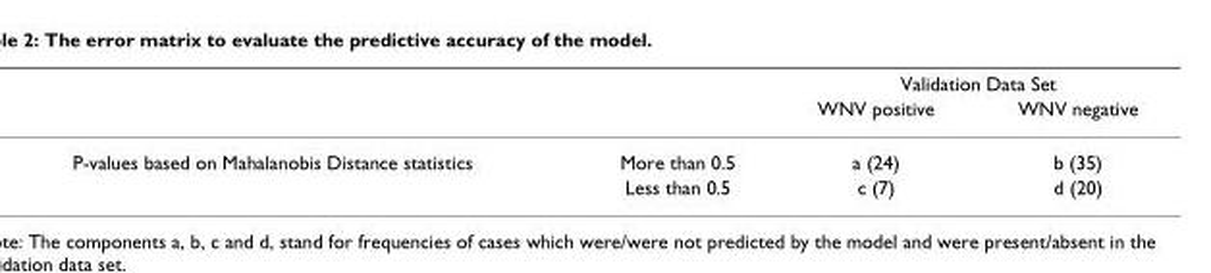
<table><thead><tr><td rowspan="2"></td><td rowspan="2"></td><td colspan="2">Validation Data Set</td></tr><tr><td>WNV positive</td><td>WNV negative</td></tr></thead><tbody><tr><td rowspan="2">P-values based on Mahalanobis Distance statistics</td><td>More than 0.5</td><td>a (24)</td><td>b (35)</td></tr><tr><td>Less than 0.5</td><td>c (7)</td><td>d (20)</td></tr></tbody></table>